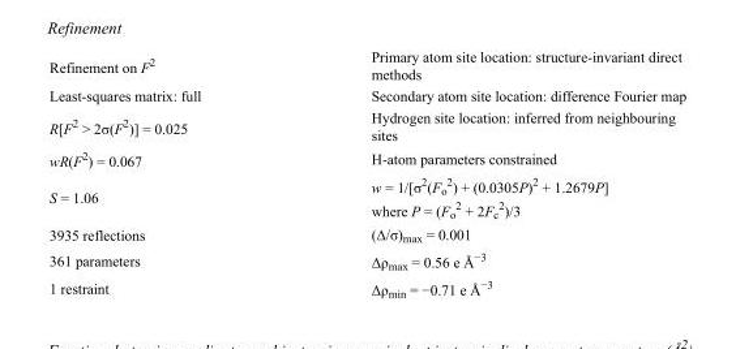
<table><tbody><tr><td>Refinement on F<sup>2</sup></td><td>Primary atom site location: structure-invariant direct methods</td></tr><tr><td>Least-squares matrix: full</td><td>Secondary atom site location: difference Fourier map</td></tr><tr><td>R[F<sup>2</sup> &gt; 2σ(F<sup>2</sup>)] = 0.025</td><td>Hydrogen site location: inferred from neighbouring sites</td></tr><tr><td>wR(F<sup>2</sup>) = 0.067</td><td>H-atom parameters constrained</td></tr><tr><td>S = 1.06</td><td>w = 1/[σ<sup>2</sup>(F<sub>o</sub> <sup>2</sup>) + (0.0305P)<sup>2</sup> + 1.2679P] where P = (F<sub>o</sub> <sup>2</sup> + 2F<sub>c</sub> <sup>2</sup>)/3</td></tr><tr><td>3935 reflections</td><td>(Δ/σ)<sub>max</sub> = 0.001</td></tr><tr><td>361 parameters</td><td>Δρ<sub>max</sub> = 0.56 e Å<sup>−3</sup></td></tr><tr><td>1 restraint</td><td>Δρ<sub>min</sub> = −0.71 e Å<sup>−3</sup></td></tr></tbody></table>